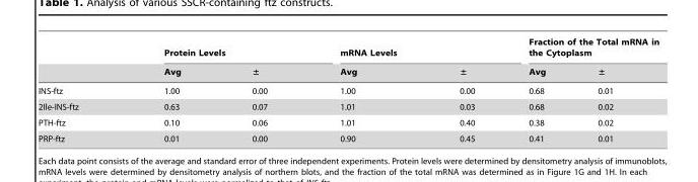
<table><thead><tr><td rowspan="2"></td><td colspan="2">Protein Levels</td><td colspan="2">mRNA Levels</td><td colspan="2">Fraction of the Total mRNA in the Cytoplasm</td></tr><tr><td>Avg</td><td>±</td><td>Avg</td><td>±</td><td>Avg</td><td>±</td></tr></thead><tbody><tr><td>INS-ftz</td><td>1.00</td><td>0.00</td><td>1.00</td><td>0.00</td><td>0.68</td><td>0.01</td></tr><tr><td>2Ile-INS-ftz</td><td>0.63</td><td>0.07</td><td>1.01</td><td>0.03</td><td>0.68</td><td>0.02</td></tr><tr><td>PTH-ftz</td><td>0.10</td><td>0.06</td><td>1.01</td><td>0.40</td><td>0.38</td><td>0.02</td></tr><tr><td>PRP-ftz</td><td>0.01</td><td>0.00</td><td>0.90</td><td>0.45</td><td>0.41</td><td>0.01</td></tr></tbody></table>